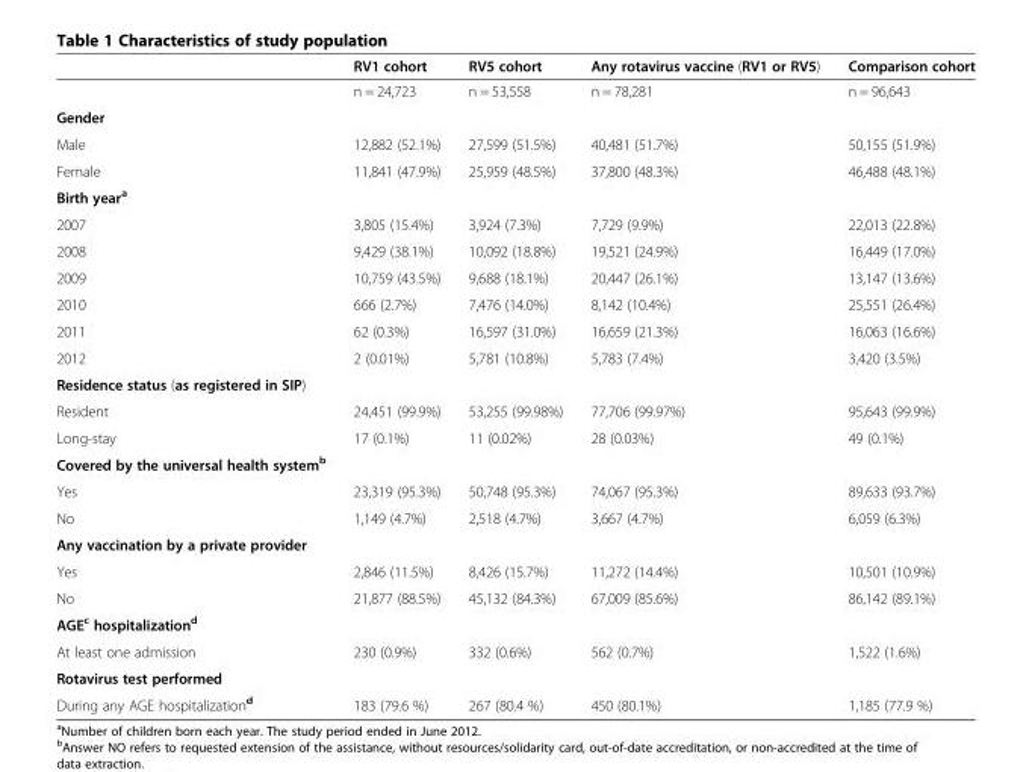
<table><thead><tr><td></td><td>RV1 cohort</td><td>RV5 cohort</td><td>Any rotavirus vaccine (RV1 or RV5)</td><td>Comparison cohort</td></tr></thead><tbody><tr><td></td><td>n = 24,723</td><td>n = 53,558</td><td>n = 78,281</td><td>n = 96,643</td></tr><tr><td colspan="5">Gender</td></tr><tr><td>Male</td><td>12,882 (52.1%)</td><td>27,599 (51.5%)</td><td>40,481 (51.7%)</td><td>50,155 (51.9%)</td></tr><tr><td>Female</td><td>11,841 (47.9%)</td><td>25,959 (48.5%)</td><td>37,800 (48.3%)</td><td>46,488 (48.1%)</td></tr><tr><td colspan="5">Birth year<sup>a</sup></td></tr><tr><td>2007</td><td>3,805 (15.4%)</td><td>3,924 (7.3%)</td><td>7,729 (9.9%)</td><td>22,013 (22.8%)</td></tr><tr><td>2008</td><td>9,429 (38.1%)</td><td>10,092 (18.8%)</td><td>19,521 (24.9%)</td><td>16,449 (17.0%)</td></tr><tr><td>2009</td><td>10,759 (43.5%)</td><td>9,688 (18.1%)</td><td>20,447 (26.1%)</td><td>13,147 (13.6%)</td></tr><tr><td>2010</td><td>666 (2.7%)</td><td>7,476 (14.0%)</td><td>8,142 (10.4%)</td><td>25,551 (26.4%)</td></tr><tr><td>2011</td><td>62 (0.3%)</td><td>16,597 (31.0%)</td><td>16,659 (21.3%)</td><td>16,063 (16.6%)</td></tr><tr><td>2012</td><td>2 (0.01%)</td><td>5,781 (10.8%)</td><td>5,783 (7.4%)</td><td>3,420 (3.5%)</td></tr><tr><td colspan="5">Residence status (as registered in SIP)</td></tr><tr><td>Resident</td><td>24,451 (99.9%)</td><td>53,255 (99.98%)</td><td>77,706 (99.97%)</td><td>95,643 (99.9%)</td></tr><tr><td>Long-stay</td><td>17 (0.1%)</td><td>11 (0.02%)</td><td>28 (0.03%)</td><td>49 (0.1%)</td></tr><tr><td colspan="5">Covered by the universal health system<sup>b</sup></td></tr><tr><td>Yes</td><td>23,319 (95.3%)</td><td>50,748 (95.3%)</td><td>74,067 (95.3%)</td><td>89,633 (93.7%)</td></tr><tr><td>No</td><td>1,149 (4.7%)</td><td>2,518 (4.7%)</td><td>3,667 (4.7%)</td><td>6,059 (6.3%)</td></tr><tr><td colspan="5">Any vaccination by a private provider</td></tr><tr><td>Yes</td><td>2,846 (11.5%)</td><td>8,426 (15.7%)</td><td>11,272 (14.4%)</td><td>10,501 (10.9%)</td></tr><tr><td>No</td><td>21,877 (88.5%)</td><td>45,132 (84.3%)</td><td>67,009 (85.6%)</td><td>86,142 (89.1%)</td></tr><tr><td colspan="5">AGE<sup>c</sup> hospitalization<sup>d</sup></td></tr><tr><td>At least one admission</td><td>230 (0.9%)</td><td>332 (0.6%)</td><td>562 (0.7%)</td><td>1,522 (1.6%)</td></tr><tr><td colspan="5">Rotavirus test performed</td></tr><tr><td>During any AGE hospitalization<sup>d</sup></td><td>183 (79.6 %)</td><td>267 (80.4 %)</td><td>450 (80.1%)</td><td>1,185 (77.9 %)</td></tr></tbody></table>